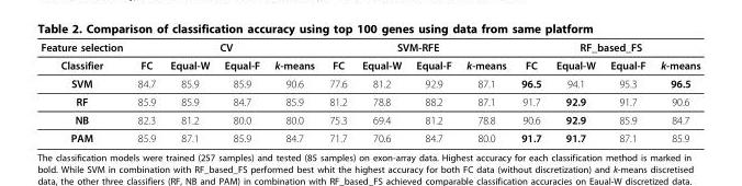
<table><thead><tr><td rowspan="2">Feature selection Classifier</td><td colspan="4">CV</td><td colspan="4">SVM-RFE</td><td colspan="4">RF_based_FS</td></tr><tr><td>FC</td><td>Equal-W</td><td>Equal-F</td><td>k-means</td><td>FC</td><td>Equal-W</td><td>Equal-F</td><td>k-means</td><td>FC</td><td>Equal-W</td><td>Equal-F</td><td>k-means</td></tr></thead><tbody><tr><td>SVM</td><td>84.7</td><td>85.9</td><td>85.9</td><td>90.6</td><td>77.6</td><td>81.2</td><td>92.9</td><td>87.1</td><td>96.5</td><td>94.1</td><td>95.3</td><td>96.5</td></tr><tr><td>RF</td><td>85.9</td><td>85.9</td><td>84.7</td><td>85.9</td><td>81.2</td><td>78.8</td><td>88.2</td><td>87.1</td><td>91.7</td><td>92.9</td><td>91.7</td><td>90.6</td></tr><tr><td>NB</td><td>82.3</td><td>81.2</td><td>80.0</td><td>80.0</td><td>75.3</td><td>69.4</td><td>81.2</td><td>78.8</td><td>90.6</td><td>92.9</td><td>85.9</td><td>84.7</td></tr><tr><td>PAM</td><td>85.9</td><td>87.1</td><td>85.9</td><td>84.7</td><td>71.7</td><td>70.6</td><td>84.7</td><td>80.0</td><td>91.7</td><td>91.7</td><td>87.1</td><td>85.9</td></tr></tbody></table>